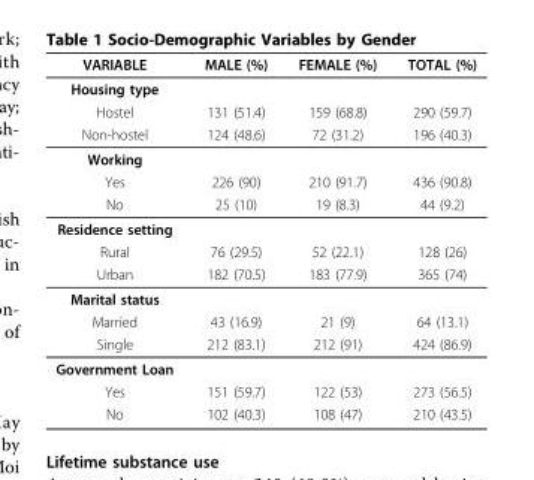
<table><thead><tr><td>VARIABLE</td><td>MALE (%)</td><td>FEMALE (%)</td><td>TOTAL (%)</td></tr></thead><tbody><tr><td colspan="4">Housing type</td></tr><tr><td>Hostel</td><td>131 (51.4)</td><td>159 (68.8)</td><td>290 (59.7)</td></tr><tr><td>Non-hostel</td><td>124 (48.6)</td><td>72 (31.2)</td><td>196 (40.3)</td></tr><tr><td colspan="4">Working</td></tr><tr><td>Yes</td><td>226 (90)</td><td>210 (91.7)</td><td>436 (90.8)</td></tr><tr><td>No</td><td>25 (10)</td><td>19 (8.3)</td><td>44 (9.2)</td></tr><tr><td colspan="4">Residence setting</td></tr><tr><td>Rural</td><td>76 (29.5)</td><td>52 (22.1)</td><td>128 (26)</td></tr><tr><td>Urban</td><td>182 (70.5)</td><td>183 (77.9)</td><td>365 (74)</td></tr><tr><td colspan="4">Marital status</td></tr><tr><td>Married</td><td>43 (16.9)</td><td>21 (9)</td><td>64 (13.1)</td></tr><tr><td>Single</td><td>212 (83.1)</td><td>212 (91)</td><td>424 (86.9)</td></tr><tr><td colspan="4">Government Loan</td></tr><tr><td>Yes</td><td>151 (59.7)</td><td>122 (53)</td><td>273 (56.5)</td></tr><tr><td>No</td><td>102 (40.3)</td><td>108 (47)</td><td>210 (43.5)</td></tr></tbody></table>